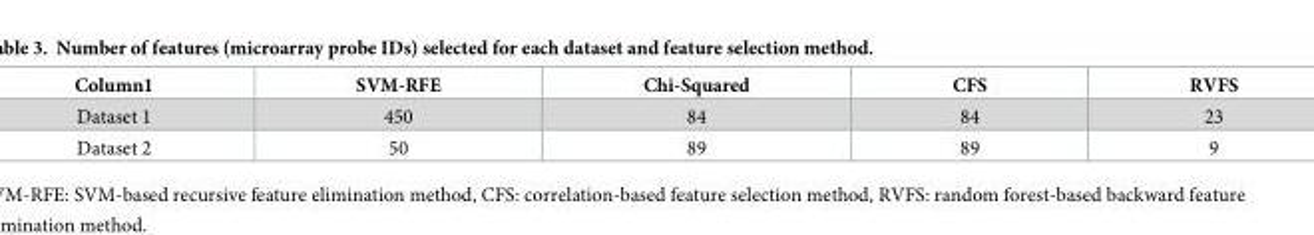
<table><thead><tr><td>Column1</td><td>SVM-RFE</td><td>Chi-Squared</td><td>CFS</td><td>RVFS</td></tr></thead><tbody><tr><td>Dataset 1</td><td>450</td><td>84</td><td>84</td><td>23</td></tr><tr><td>Dataset 2</td><td>50</td><td>89</td><td>89</td><td>9</td></tr></tbody></table>